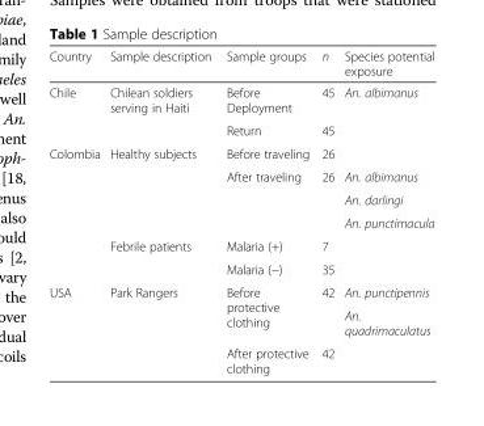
<table><thead><tr><td>Country</td><td>Sample description</td><td>Sample groups</td><td>n</td><td>Species potential exposure</td></tr></thead><tbody><tr><td rowspan="2">Chile</td><td rowspan="2">Chilean soldiers serving in Haiti</td><td>Before Deployment</td><td>45</td><td>An. albimanus</td></tr><tr><td>Return</td><td>45</td><td></td></tr><tr><td rowspan="6">Colombia</td><td rowspan="4">Healthy subjects</td><td>Before traveling</td><td>26</td><td></td></tr><tr><td rowspan="3">After traveling</td><td rowspan="3">26</td><td>An. albimanus</td></tr><tr><td>An. darlingi</td></tr><tr><td>An. punctimacula</td></tr><tr><td rowspan="2">Febrile patients</td><td>Malaria (+)</td><td>7</td><td></td></tr><tr><td>Malaria (−)</td><td>35</td><td></td></tr><tr><td rowspan="3">USA</td><td rowspan="3">Park Rangers</td><td rowspan="2">Before protective clothing</td><td rowspan="2">42</td><td>An. punctipennis</td></tr><tr><td>An. quadrimaculatus</td></tr><tr><td>After protective clothing</td><td>42</td><td></td></tr></tbody></table>